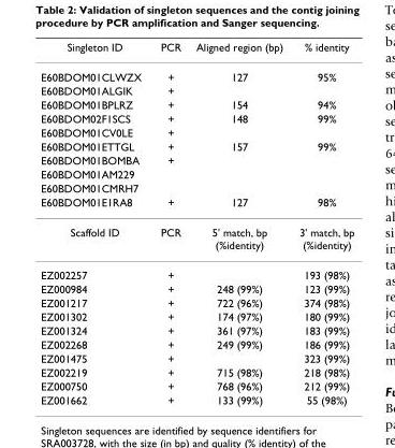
<table><thead><tr><td>Singleton ID</td><td>PCR</td><td>Aligned region (bp)</td><td>% identity</td></tr></thead><tbody><tr><td>E60BDOM01CLWZX</td><td>+</td><td>127</td><td>95%</td></tr><tr><td>E60BDOM01ALGIK</td><td>+</td><td></td><td></td></tr><tr><td>E60BDOM01BPLRZ</td><td>+</td><td>154</td><td>94%</td></tr><tr><td>E60BDOM02F1SCS</td><td>+</td><td>148</td><td>99%</td></tr><tr><td>E60BDOM01CV0LE</td><td>+</td><td></td><td></td></tr><tr><td>E60BDOM01ETTGL</td><td>+</td><td>157</td><td>99%</td></tr><tr><td>E60BDOM01BOMBA</td><td>+</td><td></td><td></td></tr><tr><td colspan="4">E60BDOM01AM229</td></tr><tr><td colspan="4">E60BDOM01CMRH7</td></tr><tr><td>E60BDOM01E1RA8</td><td>+</td><td>127</td><td>98%</td></tr><tr><td>Scaffold ID</td><td>PCR</td><td>5&#x27; match, bp (%identity)</td><td>3&#x27; match, bp (%identity)</td></tr><tr><td>EZ002257</td><td>+</td><td></td><td>193 (98%)</td></tr><tr><td>EZ000984</td><td>+</td><td>248 (99%)</td><td>123 (99%)</td></tr><tr><td>EZ001217</td><td>+</td><td>722 (96%)</td><td>374 (98%)</td></tr><tr><td>EZ001302</td><td>+</td><td>174 (97%)</td><td>180 (99%)</td></tr><tr><td>EZ001324</td><td>+</td><td>361 (97%)</td><td>183 (99%)</td></tr><tr><td>EZ002268</td><td>+</td><td>249 (99%)</td><td>186 (99%)</td></tr><tr><td>EZ001475</td><td>+</td><td></td><td>323 (99%)</td></tr><tr><td>EZ002219</td><td>+</td><td>715 (98%)</td><td>218 (98%)</td></tr><tr><td>EZ000750</td><td>+</td><td>768 (96%)</td><td>212 (99%)</td></tr><tr><td>EZ001662</td><td>+</td><td>133 (99%)</td><td>55 (98%)</td></tr></tbody></table>